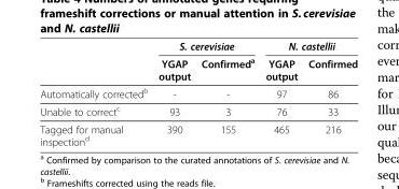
<table><thead><tr><td rowspan="2"></td><td colspan="2">S. cerevisiae</td><td colspan="2">N. castellii</td></tr><tr><td>YGAP output</td><td>Confirmed<sup>a</sup></td><td>YGAP output</td><td>Confirmed</td></tr></thead><tbody><tr><td>Automatically corrected<sup>b</sup></td><td>-</td><td>-</td><td>97</td><td>86</td></tr><tr><td>Unable to correct<sup>c</sup></td><td>93</td><td>3</td><td>76</td><td>33</td></tr><tr><td>Tagged for manual inspection<sup>d</sup></td><td>390</td><td>155</td><td>465</td><td>216</td></tr></tbody></table>